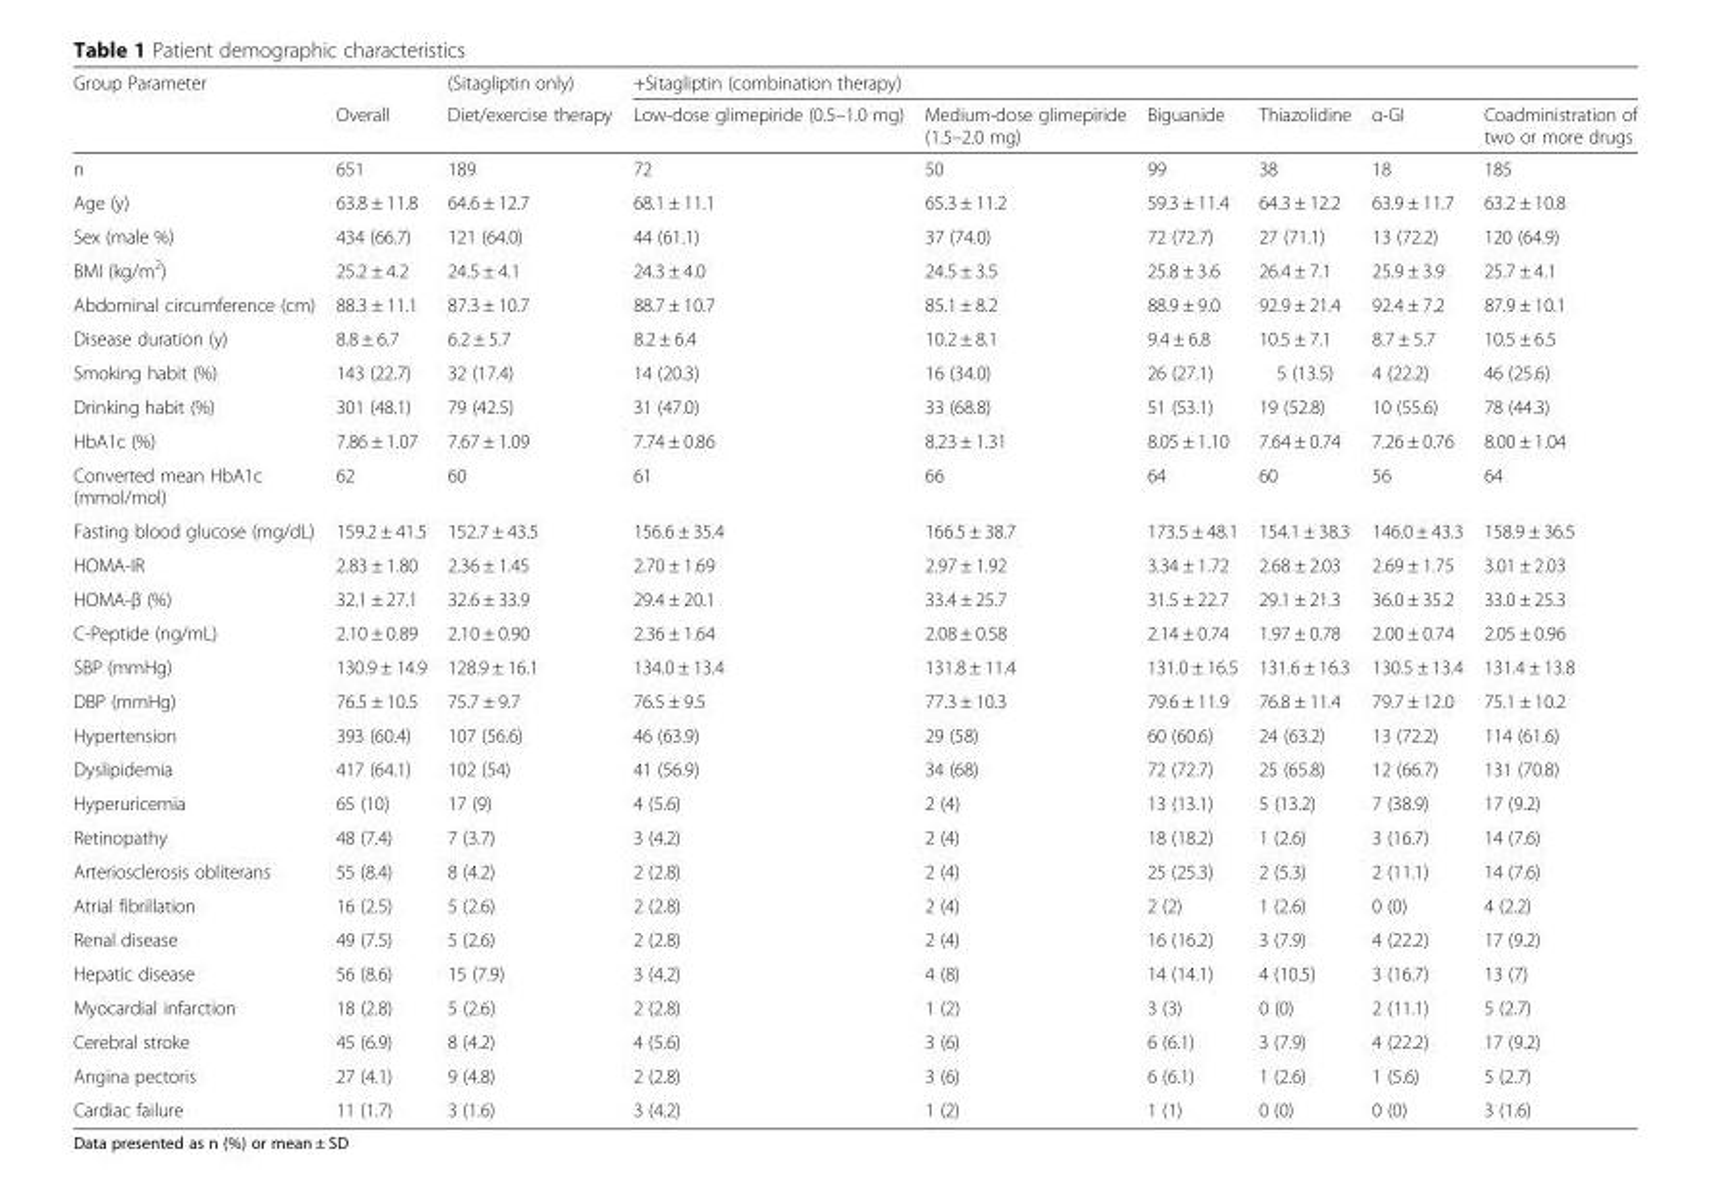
<table><thead><tr><td rowspan="2">Group Parameter</td><td rowspan="2">Overall</td><td rowspan="2">(Sitagliptin only) Diet/exercise therapy</td><td colspan="6">+Sitagliptin (combination therapy)</td></tr><tr><td>Low-dose glimepiride (0.5–1.0 mg)</td><td>Medium-dose glimepiride (1.5–2.0 mg)</td><td>Biguanide</td><td>Thiazolidine</td><td>α-GI</td><td>Coadministration of two or more drugs</td></tr></thead><tbody><tr><td>n</td><td>651</td><td>189</td><td>72</td><td>50</td><td>99</td><td>38</td><td>18</td><td>185</td></tr><tr><td>Age (y)</td><td>63.8 ± 11.8</td><td>64.6 ± 12.7</td><td>68.1 ± 11.1</td><td>65.3 ± 11.2</td><td>59.3 ± 11.4</td><td>64.3 ± 12.2</td><td>63.9 ± 11.7</td><td>63.2 ± 10.8</td></tr><tr><td>Sex (male %)</td><td>434 (66.7)</td><td>121 (64.0)</td><td>44 (61.1)</td><td>37 (74.0)</td><td>72 (72.7)</td><td>27 (71.1)</td><td>13 (72.2)</td><td>120 (64.9)</td></tr><tr><td>BMI (kg/m<sup>2</sup>)</td><td>25.2 ± 4.2</td><td>24.5 ± 4.1</td><td>24.3 ± 4.0</td><td>24.5 ± 3.5</td><td>25.8 ± 3.6</td><td>26.4 ± 7.1</td><td>25.9 ± 3.9</td><td>25.7 ± 4.1</td></tr><tr><td>Abdominal circumference (cm)</td><td>88.3 ± 11.1</td><td>87.3 ± 10.7</td><td>88.7 ± 10.7</td><td>85.1 ± 8.2</td><td>88.9 ± 9.0</td><td>92.9 ± 21.4</td><td>92.4 ± 7.2</td><td>87.9 ± 10.1</td></tr><tr><td>Disease duration (y)</td><td>8.8 ± 6.7</td><td>6.2 ± 5.7</td><td>8.2 ± 6.4</td><td>10.2 ± 8.1</td><td>9.4 ± 6.8</td><td>10.5 ± 7.1</td><td>8.7 ± 5.7</td><td>10.5 ± 6.5</td></tr><tr><td>Smoking habit (%)</td><td>143 (22.7)</td><td>32 (17.4)</td><td>14 (20.3)</td><td>16 (34.0)</td><td>26 (27.1)</td><td>5 (13.5)</td><td>4 (22.2)</td><td>46 (25.6)</td></tr><tr><td>Drinking habit (%)</td><td>301 (48.1)</td><td>79 (42.5)</td><td>31 (47.0)</td><td>33 (68.8)</td><td>51 (53.1)</td><td>19 (52.8)</td><td>10 (55.6)</td><td>78 (44.3)</td></tr><tr><td>HbA1c (%)</td><td>7.86 ± 1.07</td><td>7.67 ± 1.09</td><td>7.74 ± 0.86</td><td>8.23 ± 1.31</td><td>8.05 ± 1.10</td><td>7.64 ± 0.74</td><td>7.26 ± 0.76</td><td>8.00 ± 1.04</td></tr><tr><td>Converted mean HbA1c (mmol/mol)</td><td>62</td><td>60</td><td>61</td><td>66</td><td>64</td><td>60</td><td>56</td><td>64</td></tr><tr><td>Fasting blood glucose (mg/dL)</td><td>159.2 ± 41.5</td><td>152.7 ± 43.5</td><td>156.6 ± 35.4</td><td>166.5 ± 38.7</td><td>173.5 ± 48.1</td><td>154.1 ± 38.3</td><td>146.0 ± 43.3</td><td>158.9 ± 36.5</td></tr><tr><td>HOMA-IR</td><td>2.83 ± 1.80</td><td>2.36 ± 1.45</td><td>2.70 ± 1.69</td><td>2.97 ± 1.92</td><td>3.34 ± 1.72</td><td>2.68 ± 2.03</td><td>2.69 ± 1.75</td><td>3.01 ± 2.03</td></tr><tr><td>HOMA-β (%)</td><td>32.1 ± 27.1</td><td>32.6 ± 33.9</td><td>29.4 ± 20.1</td><td>33.4 ± 25.7</td><td>31.5 ± 22.7</td><td>29.1 ± 21.3</td><td>36.0 ± 35.2</td><td>33.0 ± 25.3</td></tr><tr><td>C-Peptide (ng/mL)</td><td>2.10 ± 0.89</td><td>2.10 ± 0.90</td><td>2.36 ± 1.64</td><td>2.08 ± 0.58</td><td>2.14 ± 0.74</td><td>1.97 ± 0.78</td><td>2.00 ± 0.74</td><td>2.05 ± 0.96</td></tr><tr><td>SBP (mmHg)</td><td>130.9 ± 14.9</td><td>128.9 ± 16.1</td><td>134.0 ± 13.4</td><td>131.8 ± 11.4</td><td>131.0 ± 16.5</td><td>131.6 ± 16.3</td><td>130.5 ± 13.4</td><td>131.4 ± 13.8</td></tr><tr><td>DBP (mmHg)</td><td>76.5 ± 10.5</td><td>75.7 ± 9.7</td><td>76.5 ± 9.5</td><td>77.3 ± 10.3</td><td>79.6 ± 11.9</td><td>76.8 ± 11.4</td><td>79.7 ± 12.0</td><td>75.1 ± 10.2</td></tr><tr><td>Hypertension</td><td>393 (60.4)</td><td>107 (56.6)</td><td>46 (63.9)</td><td>29 (58)</td><td>60 (60.6)</td><td>24 (63.2)</td><td>13 (72.2)</td><td>114 (61.6)</td></tr><tr><td>Dyslipidemia</td><td>417 (64.1)</td><td>102 (54)</td><td>41 (56.9)</td><td>34 (68)</td><td>72 (72.7)</td><td>25 (65.8)</td><td>12 (66.7)</td><td>131 (70.8)</td></tr><tr><td>Hyperuricemia</td><td>65 (10)</td><td>17 (9)</td><td>4 (5.6)</td><td>2 (4)</td><td>13 (13.1)</td><td>5 (13.2)</td><td>7 (38.9)</td><td>17 (9.2)</td></tr><tr><td>Retinopathy</td><td>48 (7.4)</td><td>7 (3.7)</td><td>3 (4.2)</td><td>2 (4)</td><td>18 (18.2)</td><td>1 (2.6)</td><td>3 (16.7)</td><td>14 (7.6)</td></tr><tr><td>Arteriosclerosis obliterans</td><td>55 (8.4)</td><td>8 (4.2)</td><td>2 (2.8)</td><td>2 (4)</td><td>25 (25.3)</td><td>2 (5.3)</td><td>2 (11.1)</td><td>14 (7.6)</td></tr><tr><td>Atrial fibrillation</td><td>16 (2.5)</td><td>5 (2.6)</td><td>2 (2.8)</td><td>2 (4)</td><td>2 (2)</td><td>1 (2.6)</td><td>0 (0)</td><td>4 (2.2)</td></tr><tr><td>Renal disease</td><td>49 (7.5)</td><td>5 (2.6)</td><td>2 (2.8)</td><td>2 (4)</td><td>16 (16.2)</td><td>3 (7.9)</td><td>4 (22.2)</td><td>17 (9.2)</td></tr><tr><td>Hepatic disease</td><td>56 (8.6)</td><td>15 (7.9)</td><td>3 (4.2)</td><td>4 (8)</td><td>14 (14.1)</td><td>4 (10.5)</td><td>3 (16.7)</td><td>13 (7)</td></tr><tr><td>Myocardial infarction</td><td>18 (2.8)</td><td>5 (2.6)</td><td>2 (2.8)</td><td>1 (2)</td><td>3 (3)</td><td>0 (0)</td><td>2 (11.1)</td><td>5 (2.7)</td></tr><tr><td>Cerebral stroke</td><td>45 (6.9)</td><td>8 (4.2)</td><td>4 (5.6)</td><td>3 (6)</td><td>6 (6.1)</td><td>3 (7.9)</td><td>4 (22.2)</td><td>17 (9.2)</td></tr><tr><td>Angina pectoris</td><td>27 (4.1)</td><td>9 (4.8)</td><td>2 (2.8)</td><td>3 (6)</td><td>6 (6.1)</td><td>1 (2.6)</td><td>1 (5.6)</td><td>5 (2.7)</td></tr><tr><td>Cardiac failure</td><td>11 (1.7)</td><td>3 (1.6)</td><td>3 (4.2)</td><td>1 (2)</td><td>1 (1)</td><td>0 (0)</td><td>0 (0)</td><td>3 (1.6)</td></tr></tbody></table>